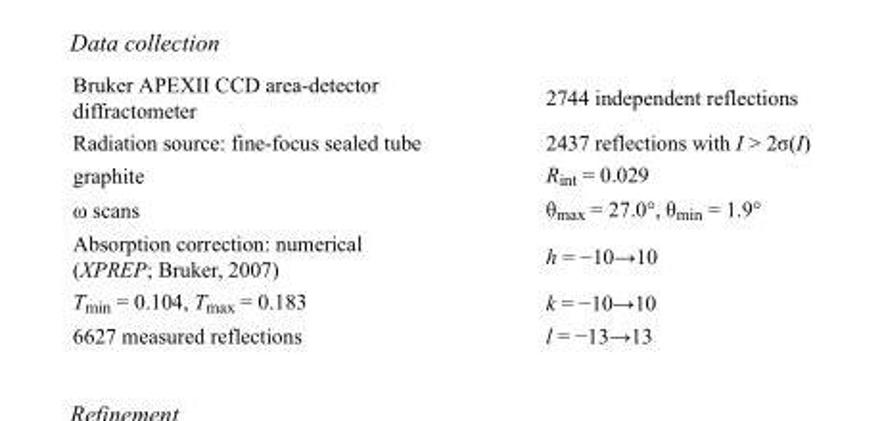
<table><tbody><tr><td>Bruker APEXII CCD area-detector diffractometer</td><td>2744 independent reflections</td></tr><tr><td>Radiation source: fine-focus sealed tube</td><td>2437 reflections with I &gt; 2σ(I)</td></tr><tr><td>graphite</td><td>R<sub>int</sub> = 0.029</td></tr><tr><td>ω scans</td><td>θ<sub>max</sub> = 27.0°, θ<sub>min</sub> = 1.9°</td></tr><tr><td>Absorption correction: numerical (XPREP; Bruker, 2007)</td><td>h = −10→10</td></tr><tr><td>T<sub>min</sub> = 0.104, T<sub>max</sub> = 0.183</td><td>k = −10→10</td></tr><tr><td>6627 measured reflections</td><td>l = −13→13</td></tr></tbody></table>